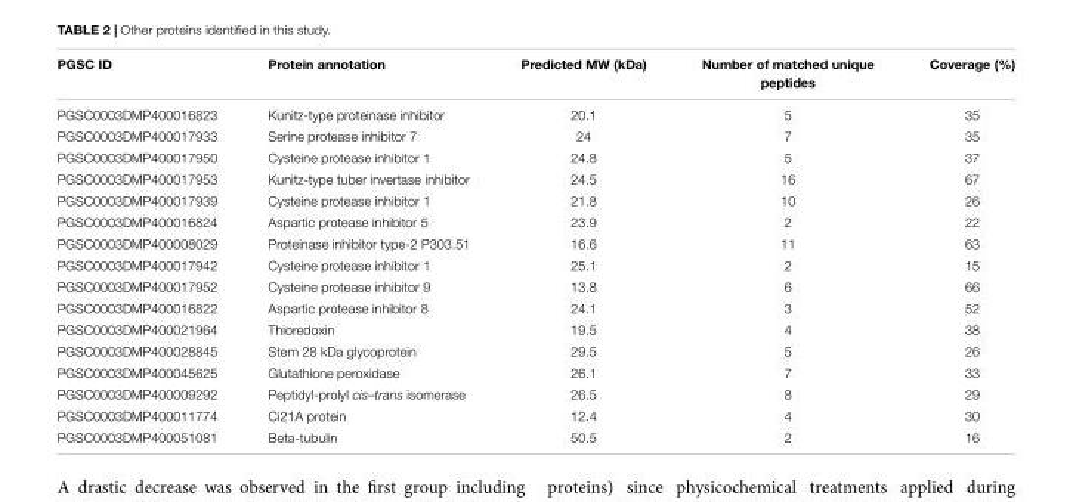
<table><thead><tr><td>PGSC ID</td><td>Protein annotation</td><td>Predicted MW (kDa)</td><td>Number of matched unique peptides</td><td>Coverage (%)</td></tr></thead><tbody><tr><td>PGSC0003DMP400016823</td><td>Kunitz-type proteinase inhibitor</td><td>20.1</td><td>5</td><td>35</td></tr><tr><td>PGSC0003DMP400017933</td><td>Serine protease inhibitor 7</td><td>24</td><td>7</td><td>35</td></tr><tr><td>PGSC0003DMP400017950</td><td>Cysteine protease inhibitor 1</td><td>24.8</td><td>5</td><td>37</td></tr><tr><td>PGSC0003DMP400017953</td><td>Kunitz-type tuber invertase inhibitor</td><td>24.5</td><td>16</td><td>67</td></tr><tr><td>PGSC0003DMP400017939</td><td>Cysteine protease inhibitor 1</td><td>21.8</td><td>10</td><td>26</td></tr><tr><td>PGSC0003DMP400016824</td><td>Aspartic protease inhibitor 5</td><td>23.9</td><td>2</td><td>22</td></tr><tr><td>PGSC0003DMP400008029</td><td>Proteinase inhibitor type-2 P303.51</td><td>16.6</td><td>11</td><td>63</td></tr><tr><td>PGSC0003DMP400017942</td><td>Cysteine protease inhibitor 1</td><td>25.1</td><td>2</td><td>15</td></tr><tr><td>PGSC0003DMP400017952</td><td>Cysteine protease inhibitor 9</td><td>13.8</td><td>6</td><td>66</td></tr><tr><td>PGSC0003DMP400016822</td><td>Aspartic protease inhibitor 8</td><td>24.1</td><td>3</td><td>52</td></tr><tr><td>PGSC0003DMP400021964</td><td>Thioredoxin</td><td>19.5</td><td>4</td><td>38</td></tr><tr><td>PGSC0003DMP400028845</td><td>Stem 28 kDa glycoprotein</td><td>29.5</td><td>5</td><td>26</td></tr><tr><td>PGSC0003DMP400045625</td><td>Glutathione peroxidase</td><td>26.1</td><td>7</td><td>33</td></tr><tr><td>PGSC0003DMP400009292</td><td>Peptidyl-prolyl cis–trans isomerase</td><td>26.5</td><td>8</td><td>29</td></tr><tr><td>PGSC0003DMP400011774</td><td>Ci21A protein</td><td>12.4</td><td>4</td><td>30</td></tr><tr><td>PGSC0003DMP400051081</td><td>Beta-tubulin</td><td>50.5</td><td>2</td><td>16</td></tr></tbody></table>